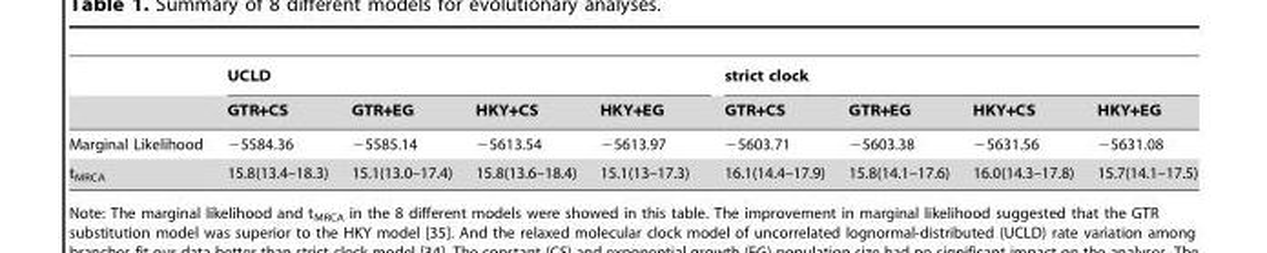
<table><thead><tr><td rowspan="2"></td><td colspan="4">UCLD</td><td colspan="4">strict clock</td></tr><tr><td>GTR+CS</td><td>GTR+EG</td><td>HKY+CS</td><td>HKY+EG</td><td>GTR+CS</td><td>GTR+EG</td><td>HKY+CS</td><td>HKY+EG</td></tr></thead><tbody><tr><td>Marginal Likelihood</td><td>−5584.36</td><td>−5585.14</td><td>−5613.54</td><td>−5613.97</td><td>−5603.71</td><td>−5603.38</td><td>−5631.56</td><td>−5631.08</td></tr><tr><td>t<sub>MRCA</sub></td><td>15.8(13.4–18.3)</td><td>15.1(13.0–17.4)</td><td>15.8(13.6–18.4)</td><td>15.1(13–17.3)</td><td>16.1(14.4–17.9)</td><td>15.8(14.1–17.6)</td><td>16.0(14.3–17.8)</td><td>15.7(14.1–17.5)</td></tr></tbody></table>